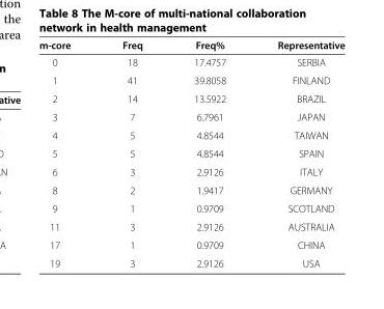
<table><thead><tr><td>m-core</td><td>Freq</td><td>Freq%</td><td>Representative</td></tr></thead><tbody><tr><td>0</td><td>18</td><td>17.4757</td><td>SERBIA</td></tr><tr><td>1</td><td>41</td><td>39.8058</td><td>FINLAND</td></tr><tr><td>2</td><td>14</td><td>13.5922</td><td>BRAZIL</td></tr><tr><td>3</td><td>7</td><td>6.7961</td><td>JAPAN</td></tr><tr><td>4</td><td>5</td><td>4.8544</td><td>TAIWAN</td></tr><tr><td>5</td><td>5</td><td>4.8544</td><td>SPAIN</td></tr><tr><td>6</td><td>3</td><td>2.9126</td><td>ITALY</td></tr><tr><td>8</td><td>2</td><td>1.9417</td><td>GERMANY</td></tr><tr><td>9</td><td>1</td><td>0.9709</td><td>SCOTLAND</td></tr><tr><td>11</td><td>3</td><td>2.9126</td><td>AUSTRALIA</td></tr><tr><td>17</td><td>1</td><td>0.9709</td><td>CHINA</td></tr><tr><td>19</td><td>3</td><td>2.9126</td><td>USA</td></tr></tbody></table>